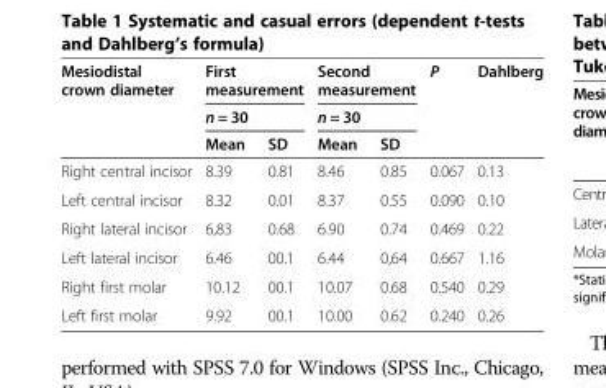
<table><thead><tr><td rowspan="3">Mesiodistal crown diameter</td><td rowspan="2" colspan="2">First measurement n = 30</td><td rowspan="2" colspan="2">Second measurement n = 30</td><td rowspan="3">P</td><td rowspan="3">Dahlberg</td></tr><tr></tr><tr><td>Mean</td><td>SD</td><td>Mean</td><td>SD</td></tr></thead><tbody><tr><td>Right central incisor</td><td>8.39</td><td>0.81</td><td>8.46</td><td>0.85</td><td>0.067</td><td>0.13</td></tr><tr><td>Left central incisor</td><td>8.32</td><td>0.01</td><td>8.37</td><td>0.55</td><td>0.090</td><td>0.10</td></tr><tr><td>Right lateral incisor</td><td>6,83</td><td>0.68</td><td>6.90</td><td>0.74</td><td>0.469</td><td>0.22</td></tr><tr><td>Left lateral incisor</td><td>6.46</td><td>00.1</td><td>6.44</td><td>0,64</td><td>0.667</td><td>1.16</td></tr><tr><td>Right first molar</td><td>10.12</td><td>00.1</td><td>10.07</td><td>0.68</td><td>0.540</td><td>0.29</td></tr><tr><td>Left first molar</td><td>9.92</td><td>00.1</td><td>10.00</td><td>0.62</td><td>0.240</td><td>0.26</td></tr></tbody></table>